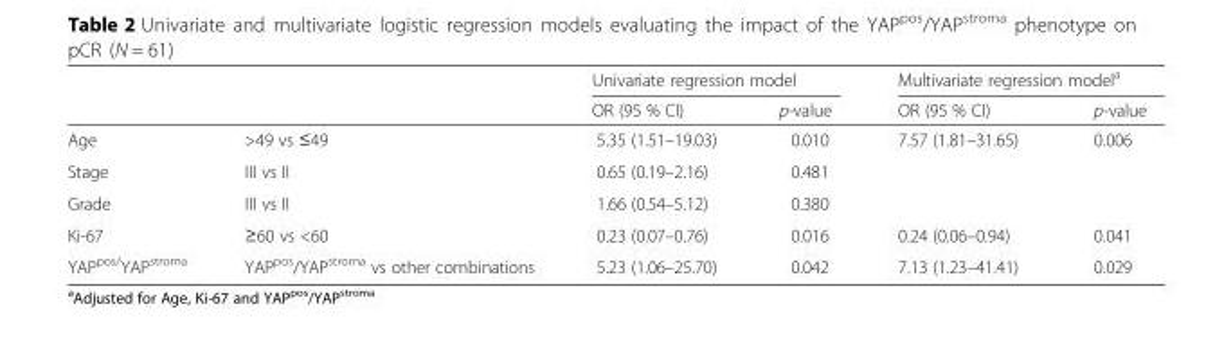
<table><thead><tr><td rowspan="2"></td><td rowspan="2"></td><td colspan="2">Univariate regression model</td><td colspan="2">Multivariate regression model<sup>a</sup></td></tr><tr><td>OR (95 % CI)</td><td>p-value</td><td>OR (95 % CI)</td><td>p-value</td></tr></thead><tbody><tr><td>Age</td><td>&gt;49 vs ≤49</td><td>5.35 (1.51–19.03)</td><td>0.010</td><td>7.57 (1.81–31.65)</td><td>0.006</td></tr><tr><td>Stage</td><td>III vs II</td><td>0.65 (0.19–2.16)</td><td>0.481</td><td></td><td></td></tr><tr><td>Grade</td><td>III vs II</td><td>1.66 (0.54–5.12)</td><td>0.380</td><td></td><td></td></tr><tr><td>Ki-67</td><td>≥60 vs &lt;60</td><td>0.23 (0.07–0.76)</td><td>0.016</td><td>0.24 (0.06–0.94)</td><td>0.041</td></tr><tr><td>YAP<sup>pos/</sup>YAP<sup>stroma</sup></td><td>YAP<sup>pos</sup>/YAP<sup>stroma</sup> vs other combinations</td><td>5.23 (1.06–25.70)</td><td>0.042</td><td>7.13 (1.23–41.41)</td><td>0.029</td></tr></tbody></table>